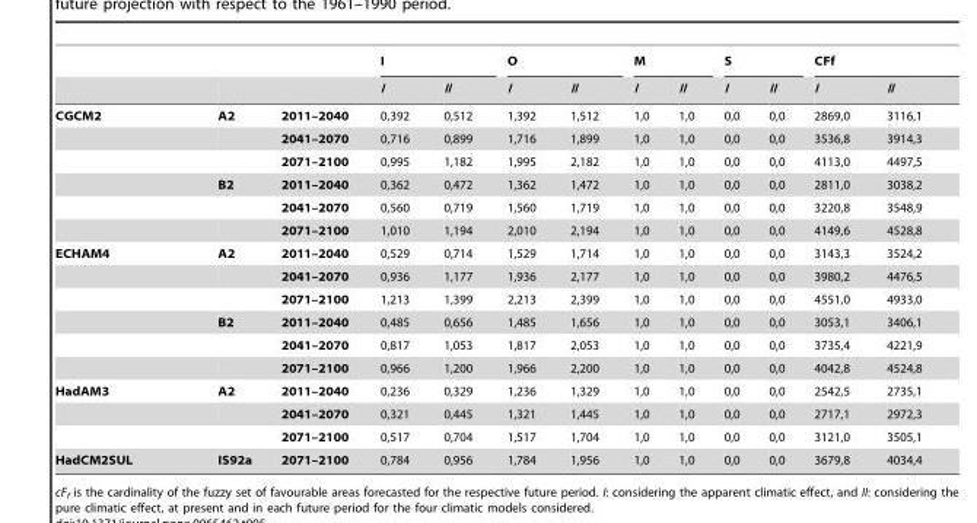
<table><thead><tr><td rowspan="2"></td><td rowspan="2"></td><td rowspan="2"></td><td colspan="2">I</td><td colspan="2">O</td><td colspan="2">M</td><td colspan="2">S</td><td colspan="2">CFf</td></tr><tr><td>I</td><td>II</td><td>I</td><td>II</td><td>I</td><td>II</td><td>I</td><td>II</td><td>I</td><td>II</td></tr></thead><tbody><tr><td rowspan="6">CGCM2</td><td>A2</td><td>2011–2040</td><td>0,392</td><td>0,512</td><td>1,392</td><td>1,512</td><td>1,0</td><td>1,0</td><td>0,0</td><td>0,0</td><td>2869,0</td><td>3116,1</td></tr><tr><td></td><td>2041–2070</td><td>0,716</td><td>0,899</td><td>1,716</td><td>1,899</td><td>1,0</td><td>1,0</td><td>0,0</td><td>0,0</td><td>3536,8</td><td>3914,3</td></tr><tr><td></td><td>2071–2100</td><td>0,995</td><td>1,182</td><td>1,995</td><td>2,182</td><td>1,0</td><td>1,0</td><td>0,0</td><td>0,0</td><td>4113,0</td><td>4497,5</td></tr><tr><td>B2</td><td>2011–2040</td><td>0,362</td><td>0,472</td><td>1,362</td><td>1,472</td><td>1,0</td><td>1,0</td><td>0,0</td><td>0,0</td><td>2811,0</td><td>3038,2</td></tr><tr><td></td><td>2041–2070</td><td>0,560</td><td>0,719</td><td>1,560</td><td>1,719</td><td>1,0</td><td>1,0</td><td>0,0</td><td>0,0</td><td>3220,8</td><td>3548,9</td></tr><tr><td></td><td>2071–2100</td><td>1,010</td><td>1,194</td><td>2,010</td><td>2,194</td><td>1,0</td><td>1,0</td><td>0,0</td><td>0,0</td><td>4149,6</td><td>4528,8</td></tr><tr><td rowspan="6">ECHAM4</td><td>A2</td><td>2011–2040</td><td>0,529</td><td>0,714</td><td>1,529</td><td>1,714</td><td>1,0</td><td>1,0</td><td>0,0</td><td>0,0</td><td>3143,3</td><td>3524,2</td></tr><tr><td></td><td>2041–2070</td><td>0,936</td><td>1,177</td><td>1,936</td><td>2,177</td><td>1,0</td><td>1,0</td><td>0,0</td><td>0,0</td><td>3980,2</td><td>4476,5</td></tr><tr><td></td><td>2071–2100</td><td>1,213</td><td>1,399</td><td>2,213</td><td>2,399</td><td>1,0</td><td>1,0</td><td>0,0</td><td>0,0</td><td>4551,0</td><td>4933,0</td></tr><tr><td>B2</td><td>2011–2040</td><td>0,485</td><td>0,656</td><td>1,485</td><td>1,656</td><td>1,0</td><td>1,0</td><td>0,0</td><td>0,0</td><td>3053,1</td><td>3406,1</td></tr><tr><td></td><td>2041–2070</td><td>0,817</td><td>1,053</td><td>1,817</td><td>2,053</td><td>1,0</td><td>1,0</td><td>0,0</td><td>0,0</td><td>3735,4</td><td>4221,9</td></tr><tr><td></td><td>2071–2100</td><td>0,966</td><td>1,200</td><td>1,966</td><td>2,200</td><td>1,0</td><td>1,0</td><td>0,0</td><td>0,0</td><td>4042,8</td><td>4524,8</td></tr><tr><td rowspan="3">HadAM3</td><td>A2</td><td>2011–2040</td><td>0,236</td><td>0,329</td><td>1,236</td><td>1,329</td><td>1,0</td><td>1,0</td><td>0,0</td><td>0,0</td><td>2542,5</td><td>2735,1</td></tr><tr><td></td><td>2041–2070</td><td>0,321</td><td>0,445</td><td>1,321</td><td>1,445</td><td>1,0</td><td>1,0</td><td>0,0</td><td>0,0</td><td>2717,1</td><td>2972,3</td></tr><tr><td></td><td>2071–2100</td><td>0,517</td><td>0,704</td><td>1,517</td><td>1,704</td><td>1,0</td><td>1,0</td><td>0,0</td><td>0,0</td><td>3121,0</td><td>3505,1</td></tr><tr><td>HadCM2SUL</td><td>IS92a</td><td>2071–2100</td><td>0,784</td><td>0,956</td><td>1,784</td><td>1,956</td><td>1,0</td><td>1,0</td><td>0,0</td><td>0,0</td><td>3679,8</td><td>4034,4</td></tr></tbody></table>